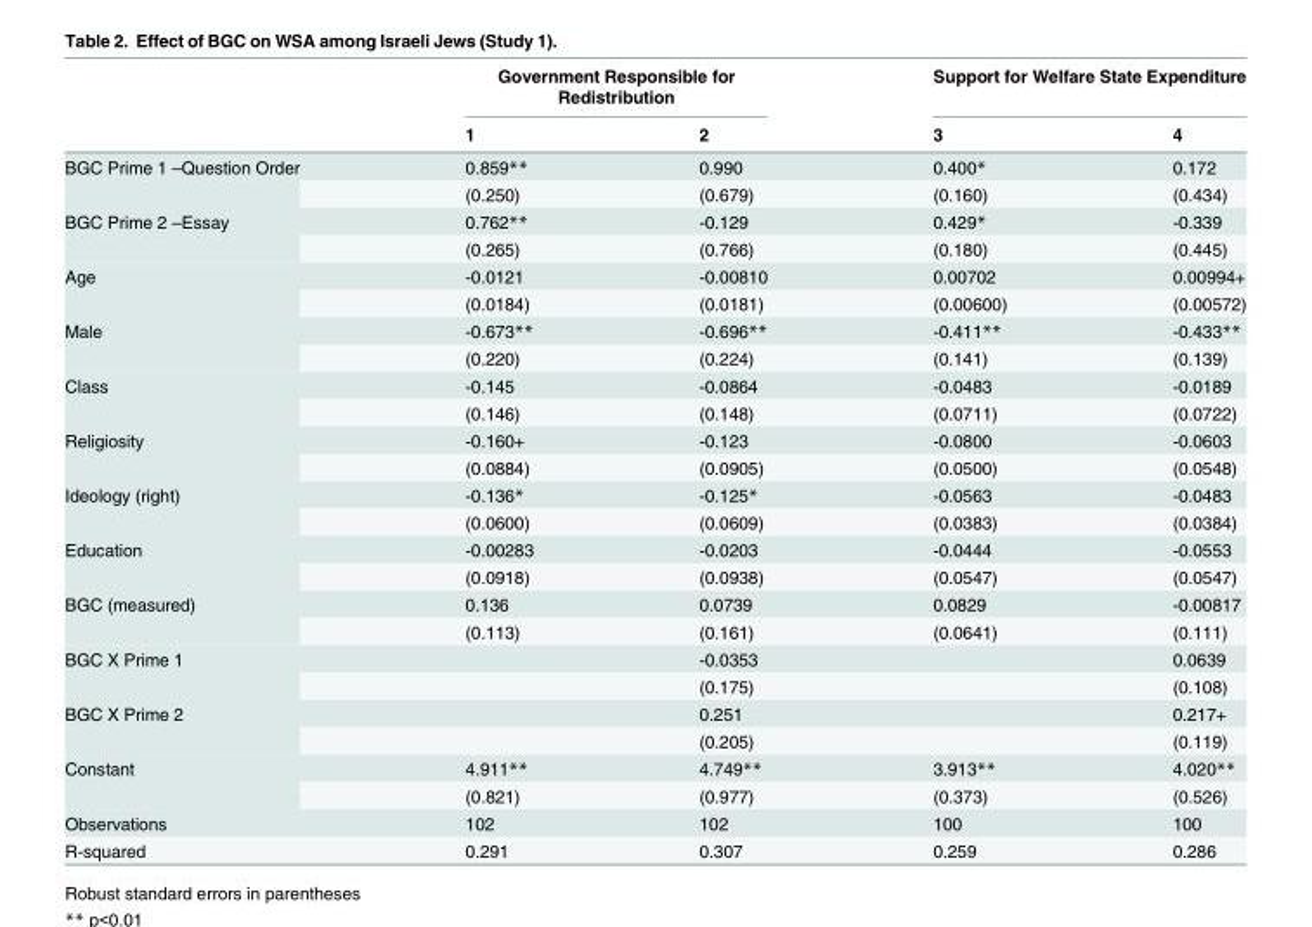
<table><thead><tr><td rowspan="2"></td><td colspan="2">Government Responsible for Redistribution</td><td colspan="2">Support for Welfare State Expenditure</td></tr><tr><td>1</td><td>2</td><td>3</td><td>4</td></tr></thead><tbody><tr><td rowspan="2">BGC Prime 1 –Question Order</td><td>0.859**</td><td>0.990</td><td>0.400*</td><td>0.172</td></tr><tr><td>(0.250)</td><td>(0.679)</td><td>(0.160)</td><td>(0.434)</td></tr><tr><td rowspan="2">BGC Prime 2 –Essay</td><td>0.762**</td><td>-0.129</td><td>0.429*</td><td>-0.339</td></tr><tr><td>(0.265)</td><td>(0.766)</td><td>(0.180)</td><td>(0.445)</td></tr><tr><td rowspan="2">Age</td><td>-0.0121</td><td>-0.00810</td><td>0.00702</td><td>0.00994+</td></tr><tr><td>(0.0184)</td><td>(0.0181)</td><td>(0.00600)</td><td>(0.00572)</td></tr><tr><td rowspan="2">Male</td><td>-0.673**</td><td>-0.696**</td><td>-0.411**</td><td>-0.433**</td></tr><tr><td>(0.220)</td><td>(0.224)</td><td>(0.141)</td><td>(0.139)</td></tr><tr><td rowspan="2">Class</td><td>-0.145</td><td>-0.0864</td><td>-0.0483</td><td>-0.0189</td></tr><tr><td>(0.146)</td><td>(0.148)</td><td>(0.0711)</td><td>(0.0722)</td></tr><tr><td rowspan="2">Religiosity</td><td>-0.160+</td><td>-0.123</td><td>-0.0800</td><td>-0.0603</td></tr><tr><td>(0.0884)</td><td>(0.0905)</td><td>(0.0500)</td><td>(0.0548)</td></tr><tr><td rowspan="2">Ideology (right)</td><td>-0.136*</td><td>-0.125*</td><td>-0.0563</td><td>-0.0483</td></tr><tr><td>(0.0600)</td><td>(0.0609)</td><td>(0.0383)</td><td>(0.0384)</td></tr><tr><td rowspan="2">Education</td><td>-0.00283</td><td>-0.0203</td><td>-0.0444</td><td>-0.0553</td></tr><tr><td>(0.0918)</td><td>(0.0938)</td><td>(0.0547)</td><td>(0.0547)</td></tr><tr><td rowspan="2">BGC (measured)</td><td>0.136</td><td>0.0739</td><td>0.0829</td><td>-0.00817</td></tr><tr><td>(0.113)</td><td>(0.161)</td><td>(0.0641)</td><td>(0.111)</td></tr><tr><td rowspan="2">BGC X Prime 1</td><td></td><td>-0.0353</td><td></td><td>0.0639</td></tr><tr><td></td><td>(0.175)</td><td></td><td>(0.108)</td></tr><tr><td rowspan="2">BGC X Prime 2</td><td></td><td>0.251</td><td></td><td>0.217+</td></tr><tr><td></td><td>(0.205)</td><td></td><td>(0.119)</td></tr><tr><td rowspan="2">Constant</td><td>4.911**</td><td>4.749**</td><td>3.913**</td><td>4.020**</td></tr><tr><td>(0.821)</td><td>(0.977)</td><td>(0.373)</td><td>(0.526)</td></tr><tr><td>Observations</td><td>102</td><td>102</td><td>100</td><td>100</td></tr><tr><td>R-squared</td><td>0.291</td><td>0.307</td><td>0.259</td><td>0.286</td></tr></tbody></table>